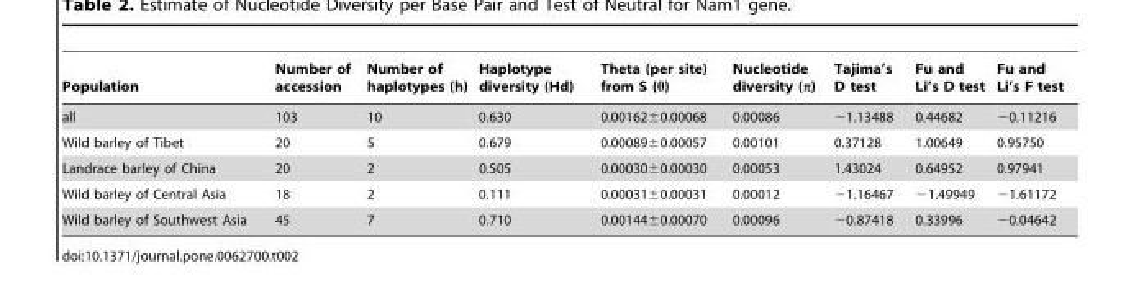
<table><thead><tr><td>Population</td><td>Number of accession</td><td>Number of haplotypes (h)</td><td>Haplotype diversity (Hd)</td><td>Theta (per site) from S (θ)</td><td>Nucleotide diversity (π)</td><td>Tajima’s D test</td><td>Fu and Li’s D test</td><td>Fu and Li’s F test</td></tr></thead><tbody><tr><td>all</td><td>103</td><td>10</td><td>0.630</td><td>0.00162±0.00068</td><td>0.00086</td><td>−1.13488</td><td>0.44682</td><td>−0.11216</td></tr><tr><td>Wild barley of Tibet</td><td>20</td><td>5</td><td>0.679</td><td>0.00089±0.00057</td><td>0.00101</td><td>0.37128</td><td>1.00649</td><td>0.95750</td></tr><tr><td>Landrace barley of China</td><td>20</td><td>2</td><td>0.505</td><td>0.00030±0.00030</td><td>0.00053</td><td>1.43024</td><td>0.64952</td><td>0.97941</td></tr><tr><td>Wild barley of Central Asia</td><td>18</td><td>2</td><td>0.111</td><td>0.00031±0.00031</td><td>0.00012</td><td>−1.16467</td><td>−1.49949</td><td>−1.61172</td></tr><tr><td>Wild barley of Southwest Asia</td><td>45</td><td>7</td><td>0.710</td><td>0.00144±0.00070</td><td>0.00096</td><td>−0.87418</td><td>0.33996</td><td>−0.04642</td></tr></tbody></table>